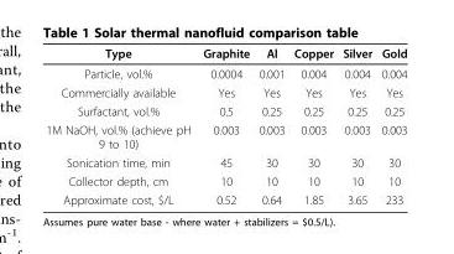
<table><thead><tr><td>Type</td><td>Graphite</td><td>Al</td><td>Copper</td><td>Silver</td><td>Gold</td></tr></thead><tbody><tr><td>Particle, vol.%</td><td>0.0004</td><td>0.001</td><td>0.004</td><td>0.004</td><td>0.004</td></tr><tr><td>Commercially available</td><td>Yes</td><td>Yes</td><td>Yes</td><td>Yes</td><td>Yes</td></tr><tr><td>Surfactant, vol.%</td><td>0.5</td><td>0.25</td><td>0.25</td><td>0.25</td><td>0.25</td></tr><tr><td>1M NaOH, vol.% (achieve pH 9 to 10)</td><td>0.003</td><td>0.003</td><td>0.003</td><td>0.003</td><td>0.003</td></tr><tr><td>Sonication time, min</td><td>45</td><td>30</td><td>30</td><td>30</td><td>30</td></tr><tr><td>Collector depth, cm</td><td>10</td><td>10</td><td>10</td><td>10</td><td>10</td></tr><tr><td>Approximate cost, $/L</td><td>0.52</td><td>0.64</td><td>1.85</td><td>3.65</td><td>233</td></tr></tbody></table>